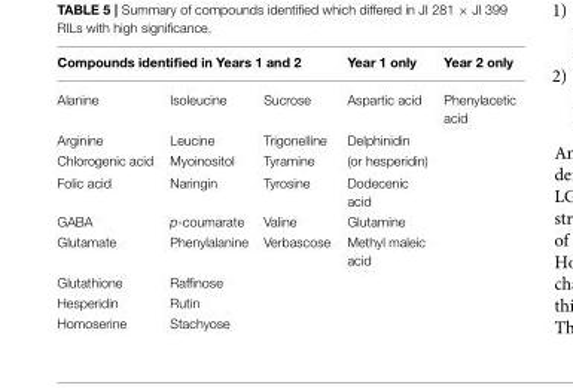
<table><thead><tr><td colspan="3">Compounds identified in Years 1 and 2</td><td rowspan="2">Year 1 only Aspartic acid</td><td rowspan="2">Year 2 only Phenylacetic acid</td></tr><tr><td>Alanine</td><td>Isoleucine</td><td>Sucrose</td></tr></thead><tbody><tr><td>Arginine</td><td>Leucine</td><td>Trigonelline</td><td>Delphinidin</td><td></td></tr><tr><td>Chlorogenic acid</td><td>Myoinositol</td><td>Tyramine</td><td>(or hesperidin)</td><td></td></tr><tr><td>Folic acid</td><td>Naringin</td><td>Tyrosine</td><td>Dodecenic acid</td><td></td></tr><tr><td>GABA</td><td>p-coumarate</td><td>Valine</td><td>Glutamine</td><td></td></tr><tr><td>Glutamate</td><td>Phenylalanine</td><td>Verbascose</td><td>Methyl maleic acid</td><td></td></tr><tr><td>Glutathione</td><td>Raffinose</td><td></td><td></td><td></td></tr><tr><td>Hesperidin</td><td>Rutin</td><td></td><td></td><td></td></tr><tr><td>Homoserine</td><td>Stachyose</td><td></td><td></td><td></td></tr></tbody></table>